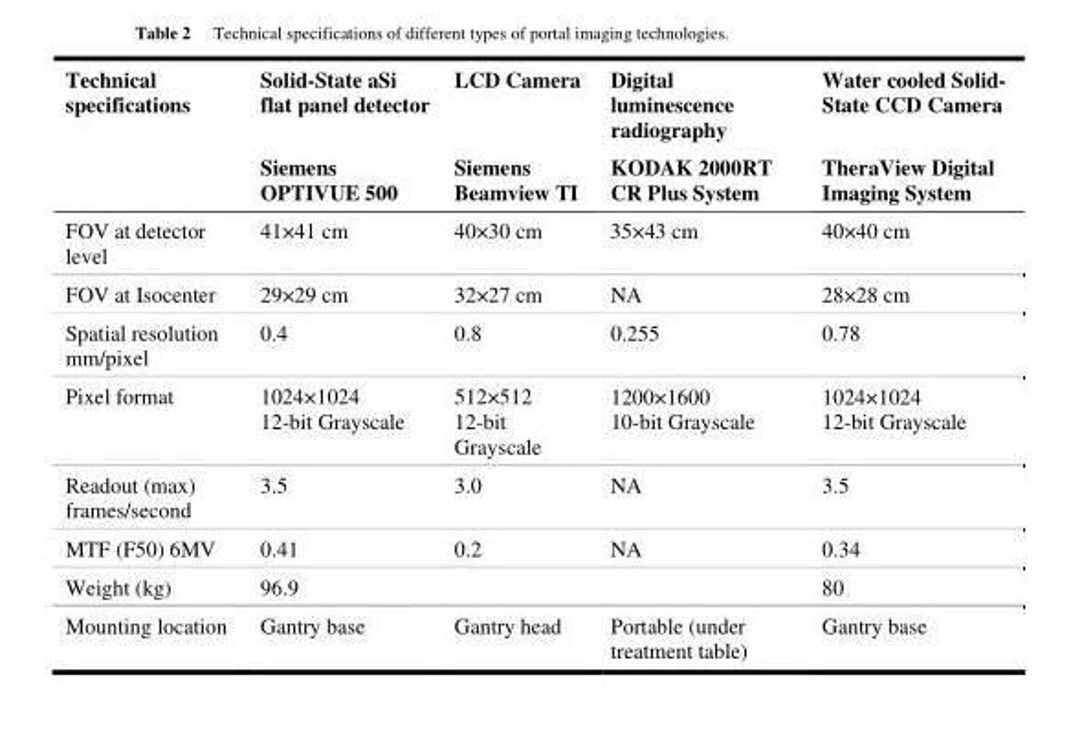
<table><thead><tr><td>Technical specifications</td><td>Solid-State aSi flat panel detector</td><td>LCD Camera</td><td>Digital luminescence radiography</td><td>Water cooled Solid- State CCD Camera</td></tr></thead><tbody><tr><td></td><td>Siemens OPTIVUE 500</td><td>Siemens Beamview TI</td><td>KODAK 2000RT CR Plus System</td><td>TheraView Digital Imaging System</td></tr><tr><td>FOV at detector level</td><td>41×41 cm</td><td>40×30 cm</td><td>35×43 cm</td><td>40×40 cm</td></tr><tr><td>FOV at Isocenter</td><td>29×29 cm</td><td>32×27 cm</td><td>NA</td><td>28×28 cm</td></tr><tr><td>Spatial resolution mm/pixel</td><td>0.4</td><td>0.8</td><td>0.255</td><td>0.78</td></tr><tr><td>Pixel format</td><td>1024×1024 12-bit Grayscale</td><td>512×512 12-bit Grayscale</td><td>1200×1600 10-bit Grayscale</td><td>1024×1024 12-bit Grayscale</td></tr><tr><td>Readout (max) frames/second</td><td>3.5</td><td>3.0</td><td>NA</td><td>3.5</td></tr><tr><td>MTF (F50) 6MV</td><td>0.41</td><td>0.2</td><td>NA</td><td>0.34</td></tr><tr><td>Weight (kg)</td><td>96.9</td><td></td><td></td><td>80</td></tr><tr><td>Mounting location</td><td>Gantry base</td><td>Gantry head</td><td>Portable (under treatment table)</td><td>Gantry base</td></tr></tbody></table>